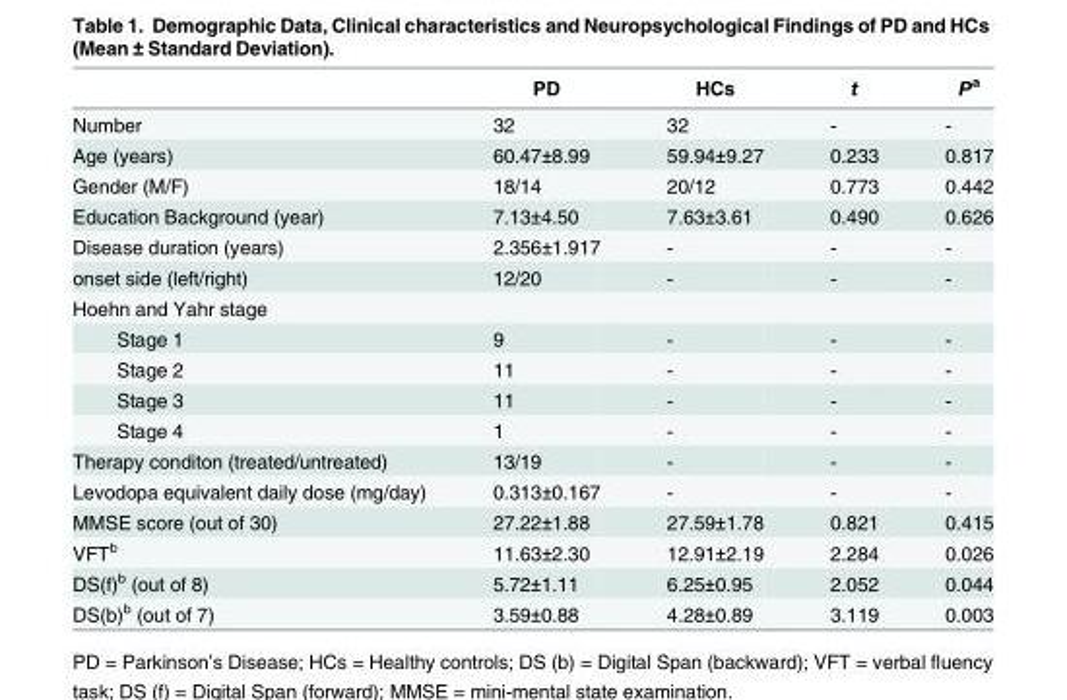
<table><thead><tr><td></td><td>PD</td><td>HCs</td><td>t</td><td>P<sup>a</sup></td></tr></thead><tbody><tr><td>Number</td><td>32</td><td>32</td><td>-</td><td>-</td></tr><tr><td>Age (years)</td><td>60.47±8.99</td><td>59.94±9.27</td><td>0.233</td><td>0.817</td></tr><tr><td>Gender (M/F)</td><td>18/14</td><td>20/12</td><td>0.773</td><td>0.442</td></tr><tr><td>Education Background (year)</td><td>7.13±4.50</td><td>7.63±3.61</td><td>0.490</td><td>0.626</td></tr><tr><td>Disease duration (years)</td><td>2.356±1.917</td><td>-</td><td>-</td><td>-</td></tr><tr><td>onset side (left/right)</td><td>12/20</td><td>-</td><td>-</td><td>-</td></tr><tr><td colspan="5">Hoehn and Yahr stage</td></tr><tr><td>Stage 1</td><td>9</td><td>-</td><td>-</td><td>-</td></tr><tr><td>Stage 2</td><td>11</td><td>-</td><td>-</td><td>-</td></tr><tr><td>Stage 3</td><td>11</td><td>-</td><td>-</td><td>-</td></tr><tr><td>Stage 4</td><td>1</td><td>-</td><td>-</td><td>-</td></tr><tr><td>Therapy conditon (treated/untreated)</td><td>13/19</td><td>-</td><td>-</td><td>-</td></tr><tr><td>Levodopa equivalent daily dose (mg/day)</td><td>0.313±0.167</td><td>-</td><td>-</td><td>-</td></tr><tr><td>MMSE score (out of 30)</td><td>27.22±1.88</td><td>27.59±1.78</td><td>0.821</td><td>0.415</td></tr><tr><td>VFT<sup>b</sup></td><td>11.63±2.30</td><td>12.91±2.19</td><td>2.284</td><td>0.026</td></tr><tr><td>DS(f)<sup>b</sup> (out of 8)</td><td>5.72±1.11</td><td>6.25±0.95</td><td>2.052</td><td>0.044</td></tr><tr><td>DS(b)<sup>b</sup> (out of 7)</td><td>3.59±0.88</td><td>4.28±0.89</td><td>3.119</td><td>0.003</td></tr></tbody></table>